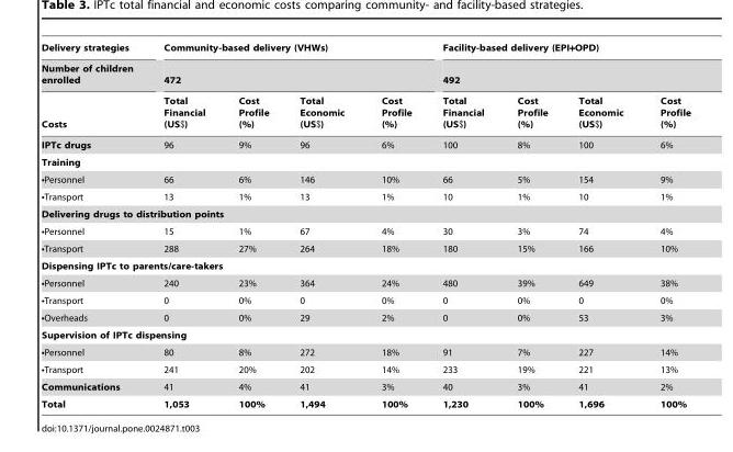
<table><thead><tr><td rowspan="3">Delivery strategies Number of children enrolled Costs</td><td rowspan="2" colspan="4">Community-based delivery (VHWs) 472</td><td rowspan="2" colspan="4">Facility-based delivery (EPI+OPD) 492</td></tr><tr></tr><tr><td>Total Financial (US$)</td><td>Cost Profile (%)</td><td>Total Economic (US$)</td><td>Cost Profile (%)</td><td>Total Financial (US$)</td><td>Cost Profile (%)</td><td>Total Economic (US$)</td><td>Cost Profile (%)</td></tr></thead><tbody><tr><td>IPTc drugs</td><td>96</td><td>9%</td><td>96</td><td>6%</td><td>100</td><td>8%</td><td>100</td><td>6%</td></tr><tr><td colspan="9">Training</td></tr><tr><td>•Personnel</td><td>66</td><td>6%</td><td>146</td><td>10%</td><td>66</td><td>5%</td><td>154</td><td>9%</td></tr><tr><td>•Transport</td><td>13</td><td>1%</td><td>13</td><td>1%</td><td>10</td><td>1%</td><td>10</td><td>1%</td></tr><tr><td colspan="9">Delivering drugs to distribution points</td></tr><tr><td>•Personnel</td><td>15</td><td>1%</td><td>67</td><td>4%</td><td>30</td><td>3%</td><td>74</td><td>4%</td></tr><tr><td>•Transport</td><td>288</td><td>27%</td><td>264</td><td>18%</td><td>180</td><td>15%</td><td>166</td><td>10%</td></tr><tr><td colspan="9">Dispensing IPTc to parents/care-takers</td></tr><tr><td>•Personnel</td><td>240</td><td>23%</td><td>364</td><td>24%</td><td>480</td><td>39%</td><td>649</td><td>38%</td></tr><tr><td>•Transport</td><td>0</td><td>0%</td><td>0</td><td>0%</td><td>0</td><td>0%</td><td>0</td><td>0%</td></tr><tr><td>•Overheads</td><td>0</td><td>0%</td><td>29</td><td>2%</td><td>0</td><td>0%</td><td>53</td><td>3%</td></tr><tr><td colspan="9">Supervision of IPTc dispensing</td></tr><tr><td>•Personnel</td><td>80</td><td>8%</td><td>272</td><td>18%</td><td>91</td><td>7%</td><td>227</td><td>14%</td></tr><tr><td>•Transport</td><td>241</td><td>20%</td><td>202</td><td>14%</td><td>233</td><td>19%</td><td>221</td><td>13%</td></tr><tr><td>Communications</td><td>41</td><td>4%</td><td>41</td><td>3%</td><td>40</td><td>3%</td><td>41</td><td>2%</td></tr><tr><td>Total</td><td>1,053</td><td>100%</td><td>1,494</td><td>100%</td><td>1,230</td><td>100%</td><td>1,696</td><td>100%</td></tr></tbody></table>